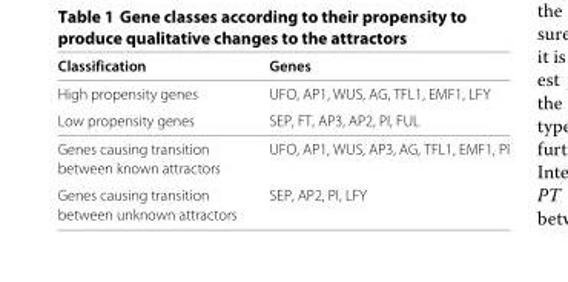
<table><thead><tr><td>Classification</td><td>Genes</td></tr></thead><tbody><tr><td>High propensity genes</td><td>UFO, AP1, WUS, AG, TFL1, EMF1, LFY</td></tr><tr><td>Low propensity genes</td><td>SEP, FT, AP3, AP2, PI, FUL</td></tr><tr><td>Genes causing transition</td><td>UFO, AP1, WUS, AP3, AG, TFL1, EMF1, PI</td></tr><tr><td colspan="2">between known attractors</td></tr><tr><td>Genes causing transition</td><td>SEP, AP2, PI, LFY</td></tr><tr><td>between unknown attractors</td><td></td></tr></tbody></table>